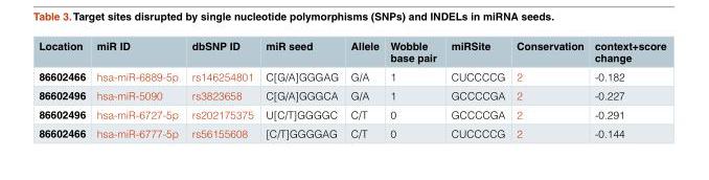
<table><thead><tr><td>Location</td><td>miR ID</td><td>dbSNP ID</td><td>miR seed</td><td>Allele</td><td>Wobble base pair</td><td>miRSite</td><td>Conservation</td><td>context+score change</td></tr></thead><tbody><tr><td>86602466</td><td>hsa-miR-6889-5p</td><td>rs146254801</td><td>C[G/A]GGGAG</td><td>G/A</td><td>1</td><td>CUCCCCG</td><td>2</td><td>-0.182</td></tr><tr><td>86602496</td><td>hsa-miR-5090</td><td>rs3823658</td><td>C[G/A]GGGCA</td><td>G/A</td><td>1</td><td>GCCCCGA</td><td>2</td><td>-0.227</td></tr><tr><td>86602496</td><td>hsa-miR-6727-5p</td><td>rs202175375</td><td>U[C/T]GGGGC</td><td>C/T</td><td>0</td><td>GCCCCGA</td><td>2</td><td>-0.291</td></tr><tr><td>86602466</td><td>hsa-miR-6777-5p</td><td>rs56155608</td><td>[C/T]GGGGAG</td><td>C/T</td><td>0</td><td>CUCCCCG</td><td>2</td><td>-0.144</td></tr></tbody></table>